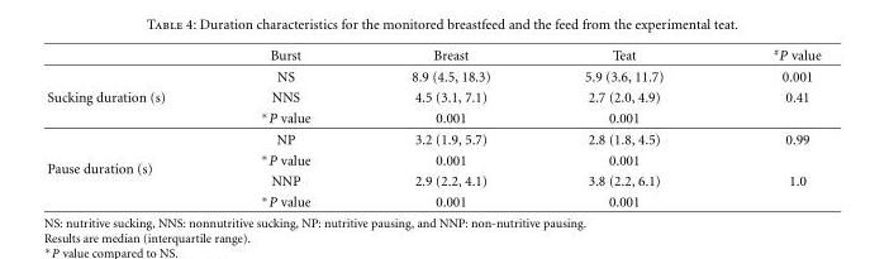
<table><thead><tr><td></td><td>Burst</td><td>Breast</td><td>Teat</td><td><sup>#</sup>P value</td></tr></thead><tbody><tr><td></td><td>NS</td><td>8.9 (4.5, 18.3)</td><td>5.9 (3.6, 11.7)</td><td>0.001</td></tr><tr><td rowspan="3">Sucking duration (s)</td><td>NNS</td><td>4.5 (3.1, 7.1)</td><td>2.7 (2.0, 4.9)</td><td>0.41</td></tr><tr><td>∗P value</td><td>0.001</td><td>0.001</td><td></td></tr><tr><td>NP</td><td>3.2 (1.9, 5.7)</td><td>2.8 (1.8, 4.5)</td><td>0.99</td></tr><tr><td rowspan="3">Pause duration (s)</td><td>∗P value</td><td>0.001</td><td>0.001</td><td></td></tr><tr><td>NNP</td><td>2.9 (2.2, 4.1)</td><td>3.8 (2.2, 6.1)</td><td>1.0</td></tr><tr><td>∗P value</td><td>0.001</td><td>0.001</td><td></td></tr></tbody></table>